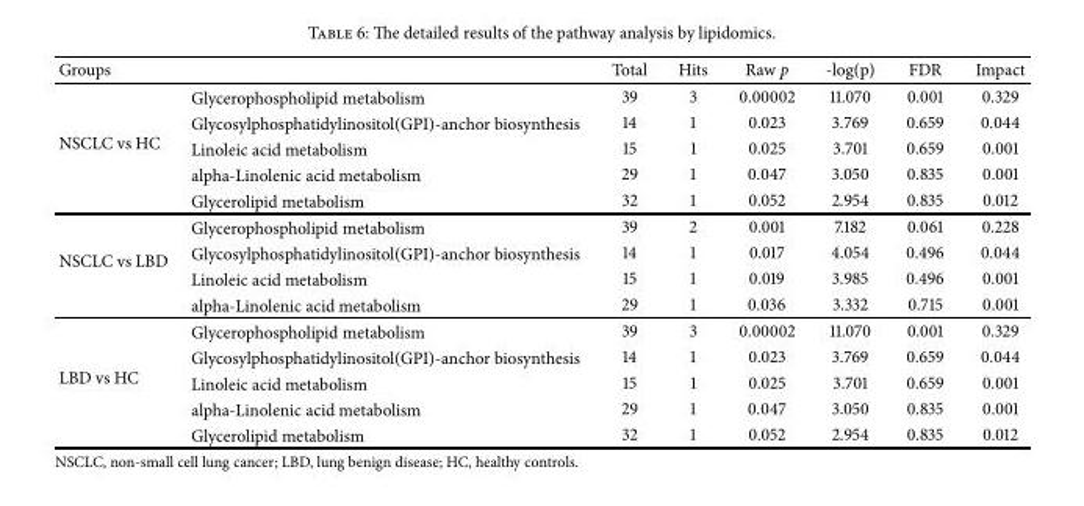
<table><thead><tr><td>Groups</td><td></td><td>Total</td><td>Hits</td><td>Raw p</td><td>-log(p)</td><td>FDR</td><td>Impact</td></tr></thead><tbody><tr><td rowspan="5">NSCLC vs HC</td><td>Glycerophospholipid metabolism</td><td>39</td><td>3</td><td>0.00002</td><td>11.070</td><td>0.001</td><td>0.329</td></tr><tr><td>Glycosylphosphatidylinositol(GPI)-anchor biosynthesis</td><td>14</td><td>1</td><td>0.023</td><td>3.769</td><td>0.659</td><td>0.044</td></tr><tr><td>Linoleic acid metabolism</td><td>15</td><td>1</td><td>0.025</td><td>3.701</td><td>0.659</td><td>0.001</td></tr><tr><td>alpha-Linolenic acid metabolism</td><td>29</td><td>1</td><td>0.047</td><td>3.050</td><td>0.835</td><td>0.001</td></tr><tr><td>Glycerolipid metabolism</td><td>32</td><td>1</td><td>0.052</td><td>2.954</td><td>0.835</td><td>0.012</td></tr><tr><td rowspan="4">NSCLC vs LBD</td><td>Glycerophospholipid metabolism</td><td>39</td><td>2</td><td>0.001</td><td>7.182</td><td>0.061</td><td>0.228</td></tr><tr><td>Glycosylphosphatidylinositol(GPI)-anchor biosynthesis</td><td>14</td><td>1</td><td>0.017</td><td>4.054</td><td>0.496</td><td>0.044</td></tr><tr><td>Linoleic acid metabolism</td><td>15</td><td>1</td><td>0.019</td><td>3.985</td><td>0.496</td><td>0.001</td></tr><tr><td>alpha-Linolenic acid metabolism</td><td>29</td><td>1</td><td>0.036</td><td>3.332</td><td>0.715</td><td>0.001</td></tr><tr><td rowspan="5">LBD vs HC</td><td>Glycerophospholipid metabolism</td><td>39</td><td>3</td><td>0.00002</td><td>11.070</td><td>0.001</td><td>0.329</td></tr><tr><td>Glycosylphosphatidylinositol(GPI)-anchor biosynthesis</td><td>14</td><td>1</td><td>0.023</td><td>3.769</td><td>0.659</td><td>0.044</td></tr><tr><td>Linoleic acid metabolism</td><td>15</td><td>1</td><td>0.025</td><td>3.701</td><td>0.659</td><td>0.001</td></tr><tr><td>alpha-Linolenic acid metabolism</td><td>29</td><td>1</td><td>0.047</td><td>3.050</td><td>0.835</td><td>0.001</td></tr><tr><td>Glycerolipid metabolism</td><td>32</td><td>1</td><td>0.052</td><td>2.954</td><td>0.835</td><td>0.012</td></tr></tbody></table>